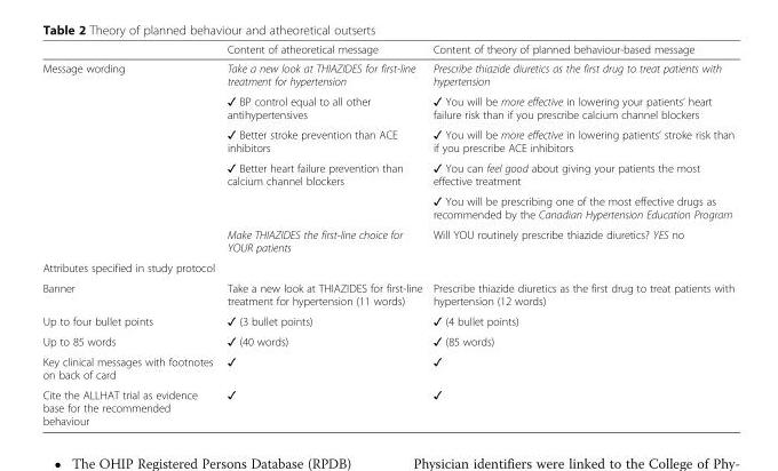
<table><thead><tr><td></td><td>Content of atheoretical message</td><td>Content of theory of planned behaviour-based message</td></tr></thead><tbody><tr><td rowspan="6">Message wording</td><td>Take a new look at THIAZIDES for first-line treatment for hypertension</td><td>Prescribe thiazide diuretics as the first drug to treat patients with hypertension</td></tr><tr><td>✓ BP control equal to all other antihypertensives</td><td>✓ You will be more effective in lowering your patients’ heart failure risk than if you prescribe calcium channel blockers</td></tr><tr><td>✓ Better stroke prevention than ACE inhibitors</td><td>✓ You will be more effective in lowering patients’ stroke risk than if you prescribe ACE inhibitors</td></tr><tr><td rowspan="2">✓ Better heart failure prevention than calcium channel blockers</td><td>✓ You can feel good about giving your patients the most effective treatment</td></tr><tr><td>✓ You will be prescribing one of the most effective drugs as recommended by the Canadian Hypertension Education Program</td></tr><tr><td>Make THIAZIDES the first-line choice for YOUR patients</td><td>Will YOU routinely prescribe thiazide diuretics? YES no</td></tr><tr><td colspan="3">Attributes specified in study protocol</td></tr><tr><td>Banner</td><td>Take a new look at THIAZIDES for first-line treatment for hypertension (11 words)</td><td>Prescribe thiazide diuretics as the first drug to treat patients with hypertension (12 words)</td></tr><tr><td>Up to four bullet points</td><td>✓ (3 bullet points)</td><td>✓ (4 bullet points)</td></tr><tr><td>Up to 85 words</td><td>✓ (40 words)</td><td>✓ (85 words)</td></tr><tr><td>Key clinical messages with footnotes on back of card</td><td>✓</td><td>✓</td></tr><tr><td>Cite the ALLHAT trial as evidence base for the recommended behaviour</td><td>✓</td><td>✓</td></tr></tbody></table>